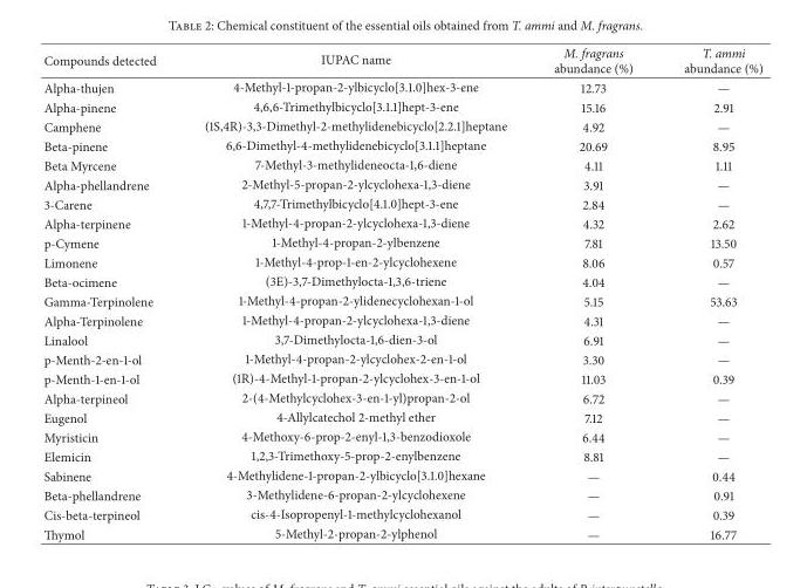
<table><thead><tr><td>Compounds detected</td><td>IUPAC name</td><td>M. fragrans abundance (%)</td><td>T. ammi abundance (%)</td></tr></thead><tbody><tr><td>Alpha-thujen</td><td>4-Methyl-1-propan-2-ylbicyclo[3.1.0]hex-3-ene</td><td>12.73</td><td>—</td></tr><tr><td>Alpha-pinene</td><td>4,6,6-Trimethylbicyclo[3.1.1]hept-3-ene</td><td>15.16</td><td>2.91</td></tr><tr><td>Camphene</td><td>(1S,4R)-3,3-Dimethyl-2-methylidenebicyclo[2.2.1]heptane</td><td>4.92</td><td>—</td></tr><tr><td>Beta-pinene</td><td>6,6-Dimethyl-4-methylidenebicyclo[3.1.1]heptane</td><td>20.69</td><td>8.95</td></tr><tr><td>Beta Myrcene</td><td>7-Methyl-3-methylideneocta-1,6-diene</td><td>4.11</td><td>1.11</td></tr><tr><td>Alpha-phellandrene</td><td>2-Methyl-5-propan-2-ylcyclohexa-1,3-diene</td><td>3.91</td><td>—</td></tr><tr><td>3-Carene</td><td>4,7,7-Trimethylbicyclo[4.1.0]hept-3-ene</td><td>2.84</td><td>—</td></tr><tr><td>Alpha-terpinene</td><td>1-Methyl-4-propan-2-ylcyclohexa-1,3-diene</td><td>4.32</td><td>2.62</td></tr><tr><td>p-Cymene</td><td>1-Methyl-4-propan-2-ylbenzene</td><td>7.81</td><td>13.50</td></tr><tr><td>Limonene</td><td>1-Methyl-4-prop-1-en-2-ylcyclohexene</td><td>8.06</td><td>0.57</td></tr><tr><td>Beta-ocimene</td><td>(3E)-3,7-Dimethylocta-1,3,6-triene</td><td>4.04</td><td>—</td></tr><tr><td>Gamma-Terpinolene</td><td>1-Methyl-4-propan-2-ylidenecyclohexan-1-ol</td><td>5.15</td><td>53.63</td></tr><tr><td>Alpha-Terpinolene</td><td>1-Methyl-4-propan-2-ylcyclohexa-1,3-diene</td><td>4.31</td><td>—</td></tr><tr><td>Linalool</td><td>3,7-Dimethylocta-1,6-dien-3-ol</td><td>6.91</td><td>—</td></tr><tr><td>p-Menth-2-en-1-ol</td><td>1-Methyl-4-propan-2-ylcyclohex-2-en-1-ol</td><td>3.30</td><td>—</td></tr><tr><td>p-Menth-1-en-1-ol</td><td>(1R)-4-Methyl-1-propan-2-ylcyclohex-3-en-1-ol</td><td>11.03</td><td>0.39</td></tr><tr><td>Alpha-terpineol</td><td>2-(4-Methylcyclohex-3-en-1-yl)propan-2-ol</td><td>6.72</td><td>—</td></tr><tr><td>Eugenol</td><td>4-Allylcatechol 2-methyl ether</td><td>7.12</td><td>—</td></tr><tr><td>Myristicin</td><td>4-Methoxy-6-prop-2-enyl-1,3-benzodioxole</td><td>6.44</td><td>—</td></tr><tr><td>Elemicin</td><td>1,2,3-Trimethoxy-5-prop-2-enylbenzene</td><td>8.81</td><td>—</td></tr><tr><td>Sabinene</td><td>4-Methylidene-1-propan-2-ylbicyclo[3.1.0]hexane</td><td>—</td><td>0.44</td></tr><tr><td>Beta-phellandrene</td><td>3-Methylidene-6-propan-2-ylcyclohexene</td><td>—</td><td>0.91</td></tr><tr><td>Cis-beta-terpineol</td><td>cis-4-Isopropenyl-1-methylcyclohexanol</td><td>—</td><td>0.39</td></tr><tr><td>Thymol</td><td>5-Methyl-2-propan-2-ylphenol</td><td>—</td><td>16.77</td></tr></tbody></table>